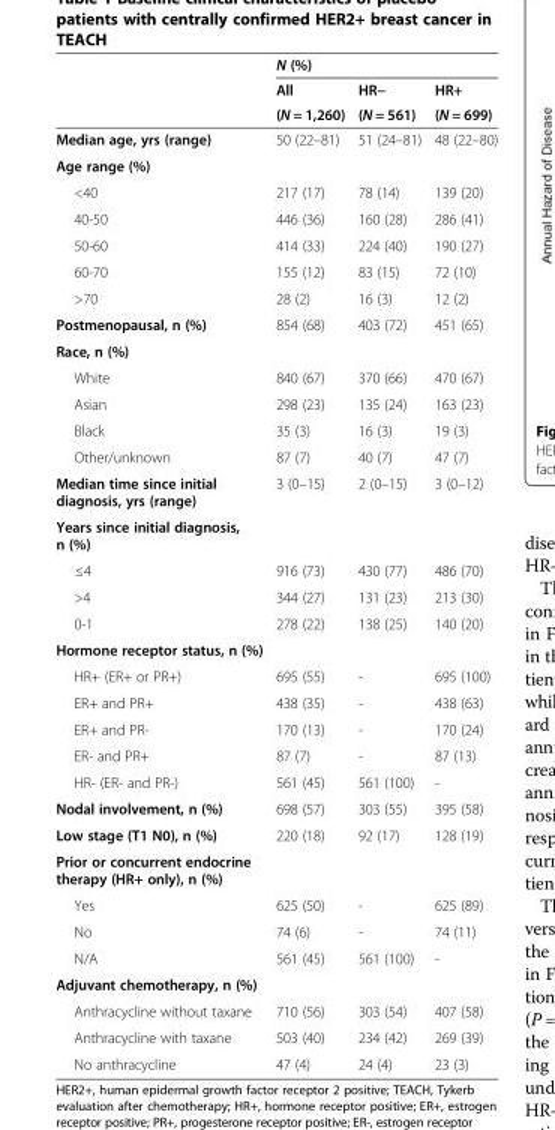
<table><thead><tr><td rowspan="3"></td><td colspan="3">N (%)</td></tr><tr><td rowspan="2">All (N = 1,260)</td><td rowspan="2">HR− (N = 561)</td><td rowspan="2">HR+ (N = 699)</td></tr><tr></tr></thead><tbody><tr><td>Median age, yrs (range)</td><td>50 (22–81)</td><td>51 (24–81)</td><td>48 (22–80)</td></tr><tr><td colspan="4">Age range (%)</td></tr><tr><td>&lt;40</td><td>217 (17)</td><td>78 (14)</td><td>139 (20)</td></tr><tr><td>40-50</td><td>446 (36)</td><td>160 (28)</td><td>286 (41)</td></tr><tr><td>50-60</td><td>414 (33)</td><td>224 (40)</td><td>190 (27)</td></tr><tr><td>60-70</td><td>155 (12)</td><td>83 (15)</td><td>72 (10)</td></tr><tr><td>&gt;70</td><td>28 (2)</td><td>16 (3)</td><td>12 (2)</td></tr><tr><td>Postmenopausal, n (%)</td><td>854 (68)</td><td>403 (72)</td><td>451 (65)</td></tr><tr><td colspan="4">Race, n (%)</td></tr><tr><td>White</td><td>840 (67)</td><td>370 (66)</td><td>470 (67)</td></tr><tr><td>Asian</td><td>298 (23)</td><td>135 (24)</td><td>163 (23)</td></tr><tr><td>Black</td><td>35 (3)</td><td>16 (3)</td><td>19 (3)</td></tr><tr><td>Other/unknown</td><td>87 (7)</td><td>40 (7)</td><td>47 (7)</td></tr><tr><td>Median time since initial diagnosis, yrs (range)</td><td>3 (0–15)</td><td>2 (0–15)</td><td>3 (0–12)</td></tr><tr><td colspan="4">Years since initial diagnosis, n (%)</td></tr><tr><td>≤4</td><td>916 (73)</td><td>430 (77)</td><td>486 (70)</td></tr><tr><td>&gt;4</td><td>344 (27)</td><td>131 (23)</td><td>213 (30)</td></tr><tr><td>0-1</td><td>278 (22)</td><td>138 (25)</td><td>140 (20)</td></tr><tr><td colspan="4">Hormone receptor status, n (%)</td></tr><tr><td>HR+ (ER+ or PR+)</td><td>695 (55)</td><td>-</td><td>695 (100)</td></tr><tr><td>ER+ and PR+</td><td>438 (35)</td><td>-</td><td>438 (63)</td></tr><tr><td>ER+ and PR-</td><td>170 (13)</td><td>-</td><td>170 (24)</td></tr><tr><td>ER- and PR+</td><td>87 (7)</td><td>-</td><td>87 (13)</td></tr><tr><td>HR- (ER- and PR-)</td><td>561 (45)</td><td>561 (100)</td><td>-</td></tr><tr><td>Nodal involvement, n (%)</td><td>698 (57)</td><td>303 (55)</td><td>395 (58)</td></tr><tr><td>Low stage (T1 N0), n (%)</td><td>220 (18)</td><td>92 (17)</td><td>128 (19)</td></tr><tr><td colspan="4">Prior or concurrent endocrine therapy (HR+ only), n (%)</td></tr><tr><td>Yes</td><td>625 (50)</td><td>-</td><td>625 (89)</td></tr><tr><td>No</td><td>74 (6)</td><td>-</td><td>74 (11)</td></tr><tr><td>N/A</td><td>561 (45)</td><td>561 (100)</td><td>-</td></tr><tr><td colspan="4">Adjuvant chemotherapy, n (%)</td></tr><tr><td>Anthracycline without taxane</td><td>710 (56)</td><td>303 (54)</td><td>407 (58)</td></tr><tr><td>Anthracycline with taxane</td><td>503 (40)</td><td>234 (42)</td><td>269 (39)</td></tr><tr><td>No anthracycline</td><td>47 (4)</td><td>24 (4)</td><td>23 (3)</td></tr></tbody></table>